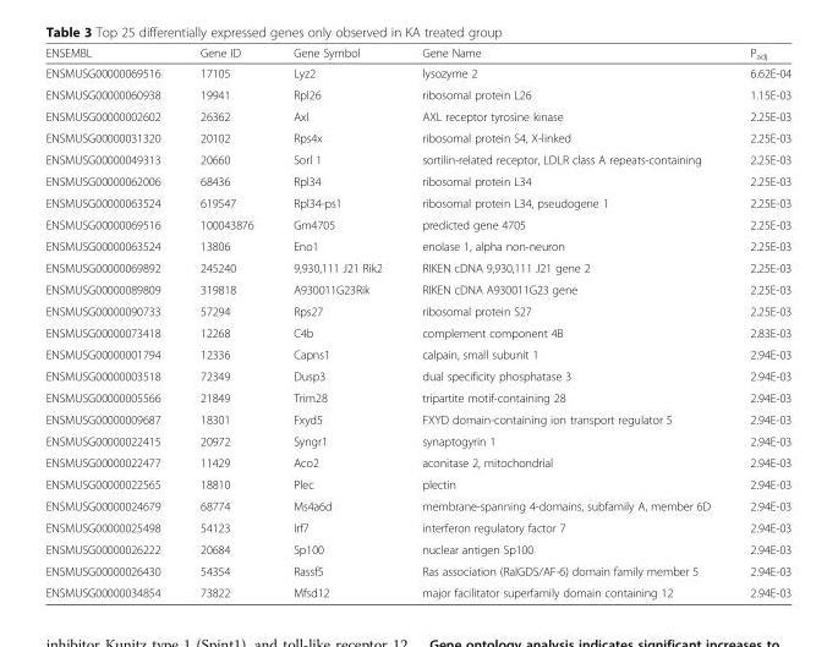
<table><thead><tr><td>ENSEMBL</td><td>Gene ID</td><td>Gene Symbol</td><td>Gene Name</td><td>P<sub>adj</sub></td></tr></thead><tbody><tr><td>ENSMUSG00000069516</td><td>17105</td><td>Lyz2</td><td>lysozyme 2</td><td>6.62E-04</td></tr><tr><td>ENSMUSG00000060938</td><td>19941</td><td>Rpl26</td><td>ribosomal protein L26</td><td>1.15E-03</td></tr><tr><td>ENSMUSG00000002602</td><td>26362</td><td>Axl</td><td>AXL receptor tyrosine kinase</td><td>2.25E-03</td></tr><tr><td>ENSMUSG00000031320</td><td>20102</td><td>Rps4x</td><td>ribosomal protein S4, X-linked</td><td>2.25E-03</td></tr><tr><td>ENSMUSG00000049313</td><td>20660</td><td>Sorl 1</td><td>sortilin-related receptor, LDLR class A repeats-containing</td><td>2.25E-03</td></tr><tr><td>ENSMUSG00000062006</td><td>68436</td><td>Rpl34</td><td>ribosomal protein L34</td><td>2.25E-03</td></tr><tr><td>ENSMUSG00000063524</td><td>619547</td><td>Rpl34-ps1</td><td>ribosomal protein L34, pseudogene 1</td><td>2.25E-03</td></tr><tr><td>ENSMUSG00000069516</td><td>100043876</td><td>Gm4705</td><td>predicted gene 4705</td><td>2.25E-03</td></tr><tr><td>ENSMUSG00000063524</td><td>13806</td><td>Eno1</td><td>enolase 1, alpha non-neuron</td><td>2.25E-03</td></tr><tr><td>ENSMUSG00000069892</td><td>245240</td><td>9,930,111 J21 Rik2</td><td>RIKEN cDNA 9,930,111 J21 gene 2</td><td>2.25E-03</td></tr><tr><td>ENSMUSG00000089809</td><td>319818</td><td>A930011G23Rik</td><td>RIKEN cDNA A930011G23 gene</td><td>2.25E-03</td></tr><tr><td>ENSMUSG00000090733</td><td>57294</td><td>Rps27</td><td>ribosomal protein S27</td><td>2.25E-03</td></tr><tr><td>ENSMUSG00000073418</td><td>12268</td><td>C4b</td><td>complement component 4B</td><td>2.83E-03</td></tr><tr><td>ENSMUSG00000001794</td><td>12336</td><td>Capns1</td><td>calpain, small subunit 1</td><td>2.94E-03</td></tr><tr><td>ENSMUSG00000003518</td><td>72349</td><td>Dusp3</td><td>dual specificity phosphatase 3</td><td>2.94E-03</td></tr><tr><td>ENSMUSG00000005566</td><td>21849</td><td>Trim28</td><td>tripartite motif-containing 28</td><td>2.94E-03</td></tr><tr><td>ENSMUSG00000009687</td><td>18301</td><td>Fxyd5</td><td>FXYD domain-containing ion transport regulator 5</td><td>2.94E-03</td></tr><tr><td>ENSMUSG00000022415</td><td>20972</td><td>Syngr1</td><td>synaptogyrin 1</td><td>2.94E-03</td></tr><tr><td>ENSMUSG00000022477</td><td>11429</td><td>Aco2</td><td>aconitase 2, mitochondrial</td><td>2.94E-03</td></tr><tr><td>ENSMUSG00000022565</td><td>18810</td><td>Plec</td><td>plectin</td><td>2.94E-03</td></tr><tr><td>ENSMUSG00000024679</td><td>68774</td><td>Ms4a6d</td><td>membrane-spanning 4-domains, subfamily A, member 6D</td><td>2.94E-03</td></tr><tr><td>ENSMUSG00000025498</td><td>54123</td><td>Irf7</td><td>interferon regulatory factor 7</td><td>2.94E-03</td></tr><tr><td>ENSMUSG00000026222</td><td>20684</td><td>Sp100</td><td>nuclear antigen Sp100</td><td>2.94E-03</td></tr><tr><td>ENSMUSG00000026430</td><td>54354</td><td>Rassf5</td><td>Ras association (RalGDS/AF-6) domain family member 5</td><td>2.94E-03</td></tr><tr><td>ENSMUSG00000034854</td><td>73822</td><td>Mfsd12</td><td>major facilitator superfamily domain containing 12</td><td>2.94E-03</td></tr></tbody></table>